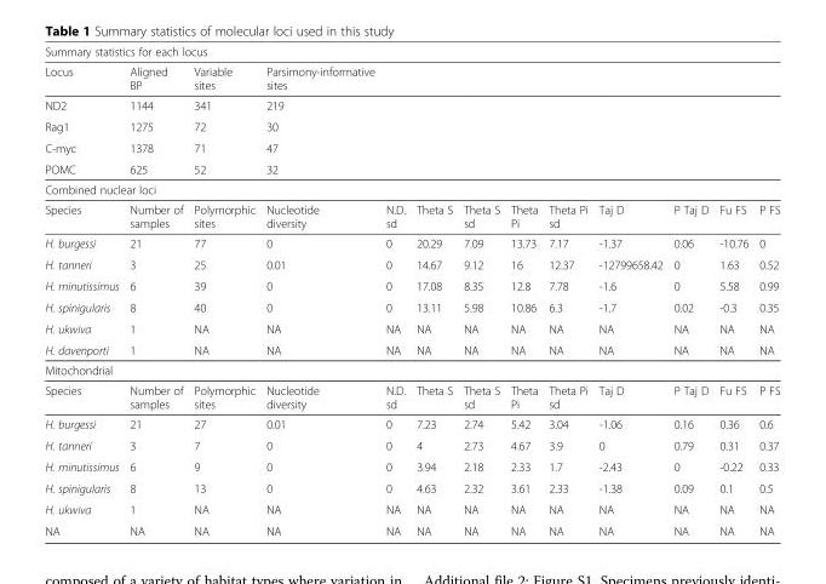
<table><tbody><tr><td colspan="13">Summary statistics for each locus</td></tr><tr><td>Locus</td><td>Aligned BP</td><td>Variable sites</td><td>Parsimony-informative sites</td><td></td><td></td><td></td><td></td><td></td><td></td><td></td><td></td><td></td></tr><tr><td>ND2</td><td>1144</td><td>341</td><td>219</td><td></td><td></td><td></td><td></td><td></td><td></td><td></td><td></td><td></td></tr><tr><td>Rag1</td><td>1275</td><td>72</td><td>30</td><td></td><td></td><td></td><td></td><td></td><td></td><td></td><td></td><td></td></tr><tr><td>C-myc</td><td>1378</td><td>71</td><td>47</td><td></td><td></td><td></td><td></td><td></td><td></td><td></td><td></td><td></td></tr><tr><td>POMC</td><td>625</td><td>52</td><td>32</td><td></td><td></td><td></td><td></td><td></td><td></td><td></td><td></td><td></td></tr><tr><td colspan="13">Combined nuclear loci</td></tr><tr><td>Species</td><td>Number of samples</td><td>Polymorphic sites</td><td>Nucleotide diversity</td><td>N.D. sd</td><td>Theta S</td><td>Theta S sd</td><td>Theta Pi</td><td>Theta Pi sd</td><td>Taj D</td><td>P Taj D</td><td>Fu FS</td><td>P FS</td></tr><tr><td>H. burgessi</td><td>21</td><td>77</td><td>0</td><td>0</td><td>20.29</td><td>7.09</td><td>13.73</td><td>7.17</td><td>-1.37</td><td>0.06</td><td>-10.76</td><td>0</td></tr><tr><td>H. tanneri</td><td>3</td><td>25</td><td>0.01</td><td>0</td><td>14.67</td><td>9.12</td><td>16</td><td>12.37</td><td>-12799658.42</td><td>0</td><td>1.63</td><td>0.52</td></tr><tr><td>H. minutissimus</td><td>6</td><td>39</td><td>0</td><td>0</td><td>17.08</td><td>8.35</td><td>12.8</td><td>7.78</td><td>-1.6</td><td>0</td><td>5.58</td><td>0.99</td></tr><tr><td>H. spinigularis</td><td>8</td><td>40</td><td>0</td><td>0</td><td>13.11</td><td>5.98</td><td>10.86</td><td>6.3</td><td>-1.7</td><td>0.02</td><td>-0.3</td><td>0.35</td></tr><tr><td>H. ukwiva</td><td>1</td><td>NA</td><td>NA</td><td>NA</td><td>NA</td><td>NA</td><td>NA</td><td>NA</td><td>NA</td><td>NA</td><td>NA</td><td>NA</td></tr><tr><td>H. davenporti</td><td>1</td><td>NA</td><td>NA</td><td>NA</td><td>NA</td><td>NA</td><td>NA</td><td>NA</td><td>NA</td><td>NA</td><td>NA</td><td>NA</td></tr><tr><td colspan="13">Mitochondrial</td></tr><tr><td>Species</td><td>Number of samples</td><td>Polymorphic sites</td><td>Nucleotide diversity</td><td>N.D. sd</td><td>Theta S</td><td>Theta S sd</td><td>Theta Pi</td><td>Theta Pi sd</td><td>Taj D</td><td>P Taj D</td><td>Fu FS</td><td>P FS</td></tr><tr><td>H. burgessi</td><td>21</td><td>27</td><td>0.01</td><td>0</td><td>7.23</td><td>2.74</td><td>5.42</td><td>3.04</td><td>-1.06</td><td>0.16</td><td>0.36</td><td>0.6</td></tr><tr><td>H. tanneri</td><td>3</td><td>7</td><td>0</td><td>0</td><td>4</td><td>2.73</td><td>4.67</td><td>3.9</td><td>0</td><td>0.79</td><td>0.31</td><td>0.37</td></tr><tr><td>H. minutissimus</td><td>6</td><td>9</td><td>0</td><td>0</td><td>3.94</td><td>2.18</td><td>2.33</td><td>1.7</td><td>-2.43</td><td>0</td><td>-0.22</td><td>0.33</td></tr><tr><td>H. spinigularis</td><td>8</td><td>13</td><td>0</td><td>0</td><td>4.63</td><td>2.32</td><td>3.61</td><td>2.33</td><td>-1.38</td><td>0.09</td><td>0.1</td><td>0.5</td></tr><tr><td>H. ukwiva</td><td>1</td><td>NA</td><td>NA</td><td>NA</td><td>NA</td><td>NA</td><td>NA</td><td>NA</td><td>NA</td><td>NA</td><td>NA</td><td>NA</td></tr><tr><td>NA</td><td>NA</td><td>NA</td><td>NA</td><td>NA</td><td>NA</td><td>NA</td><td>NA</td><td>NA</td><td>NA</td><td>NA</td><td>NA</td><td>NA</td></tr></tbody></table>